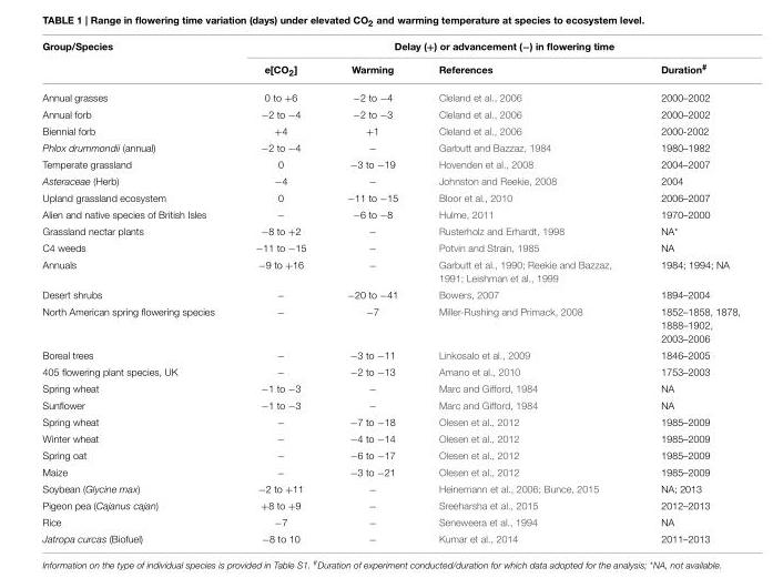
<table><thead><tr><td rowspan="2">Group/Species</td><td colspan="4">Delay (+) or advancement (−) in flowering time</td></tr><tr><td>e[CO<sub>2</sub>]</td><td>Warming</td><td>References</td><td>Duration<sup>#</sup></td></tr></thead><tbody><tr><td>Annual grasses</td><td>0 to +6</td><td>−2 to −4</td><td>Cleland et al., 2006</td><td>2000–2002</td></tr><tr><td>Annual forb</td><td>−2 to −4</td><td>−2 to −3</td><td>Cleland et al., 2006</td><td>2000–2002</td></tr><tr><td>Biennial forb</td><td>+4</td><td>+1</td><td>Cleland et al., 2006</td><td>2000-2002</td></tr><tr><td>Phlox drummondii (annual)</td><td>−2 to −4</td><td>−</td><td>Garbutt and Bazzaz, 1984</td><td>1980–1982</td></tr><tr><td>Temperate grassland</td><td>0</td><td>−3 to −19</td><td>Hovenden et al., 2008</td><td>2004–2007</td></tr><tr><td>Asteraceae (Herb)</td><td>−4</td><td>−</td><td>Johnston and Reekie, 2008</td><td>2004</td></tr><tr><td>Upland grassland ecosystem</td><td>0</td><td>−11 to −15</td><td>Bloor et al., 2010</td><td>2006–2007</td></tr><tr><td>Alien and native species of British Isles</td><td>−</td><td>−6 to −8</td><td>Hulme, 2011</td><td>1970–2000</td></tr><tr><td>Grassland nectar plants</td><td>−8 to +2</td><td>−</td><td>Rusterholz and Erhardt, 1998</td><td>NA*</td></tr><tr><td>C4 weeds</td><td>−11 to −15</td><td>−</td><td>Potvin and Strain, 1985</td><td>NA</td></tr><tr><td>Annuals</td><td>−9 to +16</td><td>−</td><td>Garbutt et al., 1990; Reekie and Bazzaz, 1991; Leishman et al., 1999</td><td>1984; 1994; NA</td></tr><tr><td>Desert shrubs</td><td>−</td><td>−20 to −41</td><td>Bowers, 2007</td><td>1894–2004</td></tr><tr><td>North American spring flowering species</td><td>−</td><td>−7</td><td>Miller-Rushing and Primack, 2008</td><td>1852–1858, 1878, 1888–1902, 2003–2006</td></tr><tr><td>Boreal trees</td><td>−</td><td>−3 to −11</td><td>Linkosalo et al., 2009</td><td>1846–2005</td></tr><tr><td>405 flowering plant species, UK</td><td>−</td><td>−2 to −13</td><td>Amano et al., 2010</td><td>1753–2003</td></tr><tr><td>Spring wheat</td><td>−1 to −3</td><td>−</td><td>Marc and Gifford, 1984</td><td>NA</td></tr><tr><td>Sunflower</td><td>−1 to −3</td><td>−</td><td>Marc and Gifford, 1984</td><td>NA</td></tr><tr><td>Spring wheat</td><td>−</td><td>−7 to −18</td><td>Olesen et al., 2012</td><td>1985–2009</td></tr><tr><td>Winter wheat</td><td>−</td><td>−4 to −14</td><td>Olesen et al., 2012</td><td>1985–2009</td></tr><tr><td>Spring oat</td><td>−</td><td>−6 to −17</td><td>Olesen et al., 2012</td><td>1985–2009</td></tr><tr><td>Maize</td><td>−</td><td>−3 to −21</td><td>Olesen et al., 2012</td><td>1985–2009</td></tr><tr><td>Soybean (Glycine max)</td><td>−2 to +11</td><td>−</td><td>Heinemann et al., 2006; Bunce, 2015</td><td>NA; 2013</td></tr><tr><td>Pigeon pea (Cajanus cajan)</td><td>+8 to +9</td><td>−</td><td>Sreeharsha et al., 2015</td><td>2012–2013</td></tr><tr><td>Rice</td><td>−7</td><td>−</td><td>Seneweera et al., 1994</td><td>NA</td></tr><tr><td>Jatropa curcas (Biofuel)</td><td>−8 to 10</td><td>−</td><td>Kumar et al., 2014</td><td>2011–2013</td></tr></tbody></table>